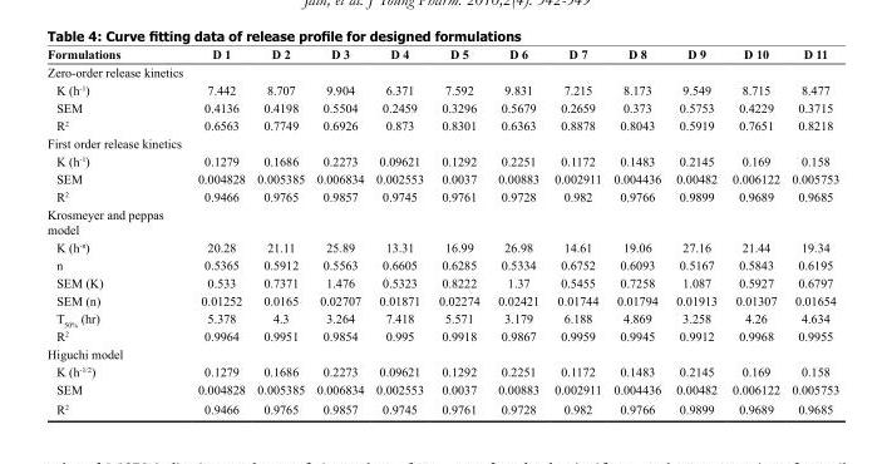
<table><thead><tr><td>Formulations</td><td>D 1</td><td>D 2</td><td>D 3</td><td>D 4</td><td>D 5</td><td>D 6</td><td>D 7</td><td>D 8</td><td>D 9</td><td>D 10</td><td>D 11</td></tr></thead><tbody><tr><td colspan="12">Zero-order release kinetics</td></tr><tr><td>K (h<sup>-1</sup>)</td><td>7.442</td><td>8.707</td><td>9.904</td><td>6.371</td><td>7.592</td><td>9.831</td><td>7.215</td><td>8.173</td><td>9.549</td><td>8.715</td><td>8.477</td></tr><tr><td>SEM</td><td>0.4136</td><td>0.4198</td><td>0.5504</td><td>0.2459</td><td>0.3296</td><td>0.5679</td><td>0.2659</td><td>0.373</td><td>0.5753</td><td>0.4229</td><td>0.3715</td></tr><tr><td>R<sup>2</sup></td><td>0.6563</td><td>0.7749</td><td>0.6926</td><td>0.873</td><td>0.8301</td><td>0.6363</td><td>0.8878</td><td>0.8043</td><td>0.5919</td><td>0.7651</td><td>0.8218</td></tr><tr><td colspan="12">First order release kinetics</td></tr><tr><td>K (h<sup>-1</sup>)</td><td>0.1279</td><td>0.1686</td><td>0.2273</td><td>0.09621</td><td>0.1292</td><td>0.2251</td><td>0.1172</td><td>0.1483</td><td>0.2145</td><td>0.169</td><td>0.158</td></tr><tr><td>SEM</td><td>0.004828</td><td>0.005385</td><td>0.006834</td><td>0.002553</td><td>0.0037</td><td>0.00883</td><td>0.002911</td><td>0.004436</td><td>0.00482</td><td>0.006122</td><td>0.005753</td></tr><tr><td>R<sup>2</sup></td><td>0.9466</td><td>0.9765</td><td>0.9857</td><td>0.9745</td><td>0.9761</td><td>0.9728</td><td>0.982</td><td>0.9766</td><td>0.9899</td><td>0.9689</td><td>0.9685</td></tr><tr><td colspan="12">Krosmeyer and peppas model</td></tr><tr><td>K (h<sup>-n</sup>)</td><td>20.28</td><td>21.11</td><td>25.89</td><td>13.31</td><td>16.99</td><td>26.98</td><td>14.61</td><td>19.06</td><td>27.16</td><td>21.44</td><td>19.34</td></tr><tr><td>n</td><td>0.5365</td><td>0.5912</td><td>0.5563</td><td>0.6605</td><td>0.6285</td><td>0.5334</td><td>0.6752</td><td>0.6093</td><td>0.5167</td><td>0.5843</td><td>0.6195</td></tr><tr><td>SEM (K)</td><td>0.533</td><td>0.7371</td><td>1.476</td><td>0.5323</td><td>0.8222</td><td>1.37</td><td>0.5455</td><td>0.7258</td><td>1.087</td><td>0.5927</td><td>0.6797</td></tr><tr><td>SEM (n)</td><td>0.01252</td><td>0.0165</td><td>0.02707</td><td>0.01871</td><td>0.02274</td><td>0.02421</td><td>0.01744</td><td>0.01794</td><td>0.01913</td><td>0.01307</td><td>0.01654</td></tr><tr><td>T<sub>50%</sub> (hr)</td><td>5.378</td><td>4.3</td><td>3.264</td><td>7.418</td><td>5.571</td><td>3.179</td><td>6.188</td><td>4.869</td><td>3.258</td><td>4.26</td><td>4.634</td></tr><tr><td>R<sup>2</sup></td><td>0.9964</td><td>0.9951</td><td>0.9854</td><td>0.995</td><td>0.9918</td><td>0.9867</td><td>0.9959</td><td>0.9945</td><td>0.9912</td><td>0.9968</td><td>0.9955</td></tr><tr><td colspan="12">Higuchi model</td></tr><tr><td>K (h<sup>-1/2</sup>)</td><td>0.1279</td><td>0.1686</td><td>0.2273</td><td>0.09621</td><td>0.1292</td><td>0.2251</td><td>0.1172</td><td>0.1483</td><td>0.2145</td><td>0.169</td><td>0.158</td></tr><tr><td>SEM</td><td>0.004828</td><td>0.005385</td><td>0.006834</td><td>0.002553</td><td>0.0037</td><td>0.00883</td><td>0.002911</td><td>0.004436</td><td>0.00482</td><td>0.006122</td><td>0.005753</td></tr><tr><td>R<sup>2</sup></td><td>0.9466</td><td>0.9765</td><td>0.9857</td><td>0.9745</td><td>0.9761</td><td>0.9728</td><td>0.982</td><td>0.9766</td><td>0.9899</td><td>0.9689</td><td>0.9685</td></tr></tbody></table>